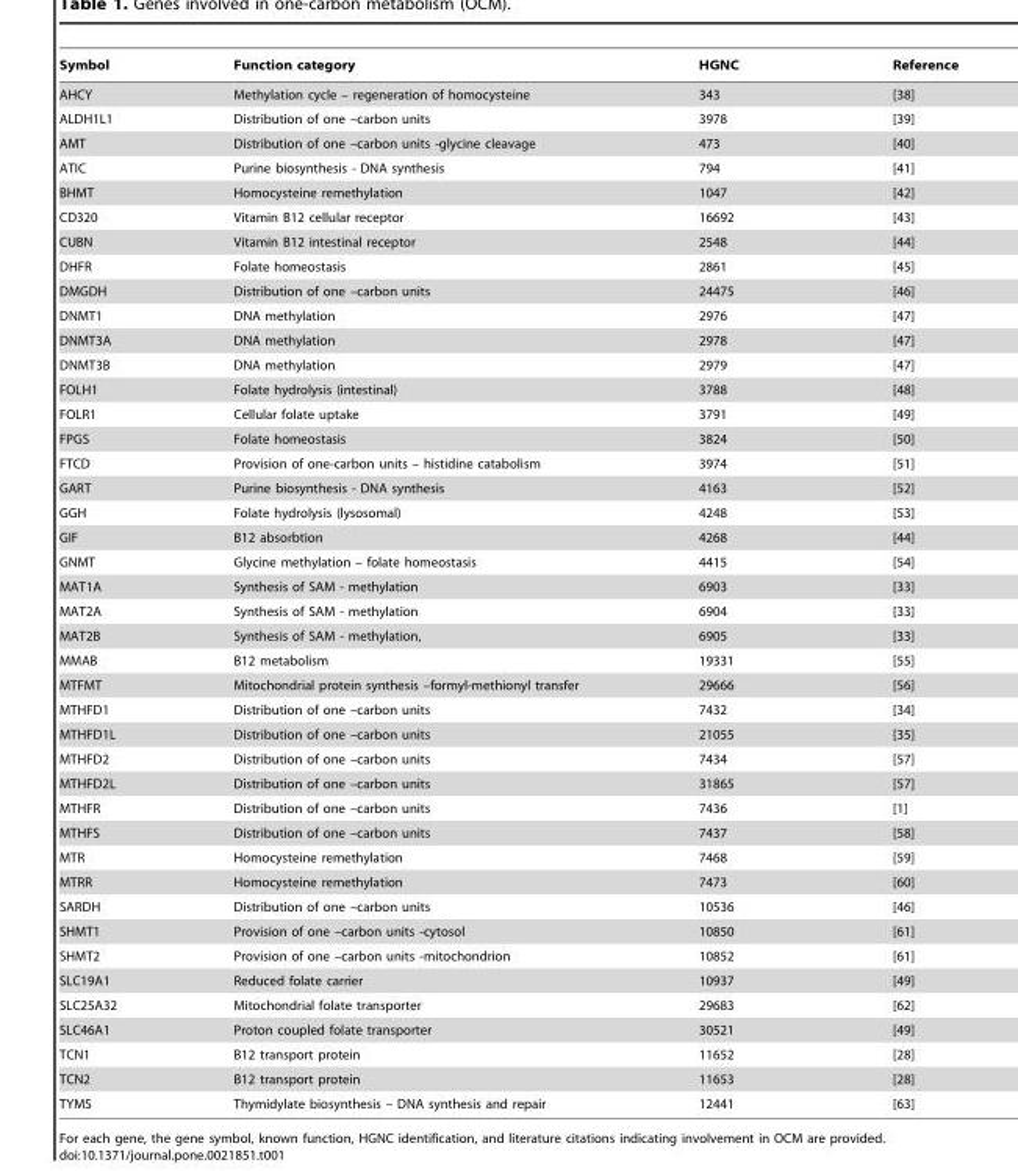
<table><thead><tr><td>Symbol</td><td>Function category</td><td>HGNC</td><td>Reference</td></tr></thead><tbody><tr><td>AHCY</td><td>Methylation cycle – regeneration of homocysteine</td><td>343</td><td>[38]</td></tr><tr><td>ALDH1L1</td><td>Distribution of one –carbon units</td><td>3978</td><td>[39]</td></tr><tr><td>AMT</td><td>Distribution of one –carbon units -glycine cleavage</td><td>473</td><td>[40]</td></tr><tr><td>ATIC</td><td>Purine biosynthesis - DNA synthesis</td><td>794</td><td>[41]</td></tr><tr><td>BHMT</td><td>Homocysteine remethylation</td><td>1047</td><td>[42]</td></tr><tr><td>CD320</td><td>Vitamin B12 cellular receptor</td><td>16692</td><td>[43]</td></tr><tr><td>CUBN</td><td>Vitamin B12 intestinal receptor</td><td>2548</td><td>[44]</td></tr><tr><td>DHFR</td><td>Folate homeostasis</td><td>2861</td><td>[45]</td></tr><tr><td>DMGDH</td><td>Distribution of one –carbon units</td><td>24475</td><td>[46]</td></tr><tr><td>DNMT1</td><td>DNA methylation</td><td>2976</td><td>[47]</td></tr><tr><td>DNMT3A</td><td>DNA methylation</td><td>2978</td><td>[47]</td></tr><tr><td>DNMT3B</td><td>DNA methylation</td><td>2979</td><td>[47]</td></tr><tr><td>FOLH1</td><td>Folate hydrolysis (intestinal)</td><td>3788</td><td>[48]</td></tr><tr><td>FOLR1</td><td>Cellular folate uptake</td><td>3791</td><td>[49]</td></tr><tr><td>FPGS</td><td>Folate homeostasis</td><td>3824</td><td>[50]</td></tr><tr><td>FTCD</td><td>Provision of one-carbon units – histidine catabolism</td><td>3974</td><td>[51]</td></tr><tr><td>GART</td><td>Purine biosynthesis - DNA synthesis</td><td>4163</td><td>[52]</td></tr><tr><td>GGH</td><td>Folate hydrolysis (lysosomal)</td><td>4248</td><td>[53]</td></tr><tr><td>GIF</td><td>B12 absorbtion</td><td>4268</td><td>[44]</td></tr><tr><td>GNMT</td><td>Glycine methylation – folate homeostasis</td><td>4415</td><td>[54]</td></tr><tr><td>MAT1A</td><td>Synthesis of SAM - methylation</td><td>6903</td><td>[33]</td></tr><tr><td>MAT2A</td><td>Synthesis of SAM - methylation</td><td>6904</td><td>[33]</td></tr><tr><td>MAT2B</td><td>Synthesis of SAM - methylation,</td><td>6905</td><td>[33]</td></tr><tr><td>MMAB</td><td>B12 metabolism</td><td>19331</td><td>[55]</td></tr><tr><td>MTFMT</td><td>Mitochondrial protein synthesis –formyl-methionyl transfer</td><td>29666</td><td>[56]</td></tr><tr><td>MTHFD1</td><td>Distribution of one –carbon units</td><td>7432</td><td>[34]</td></tr><tr><td>MTHFD1L</td><td>Distribution of one –carbon units</td><td>21055</td><td>[35]</td></tr><tr><td>MTHFD2</td><td>Distribution of one –carbon units</td><td>7434</td><td>[57]</td></tr><tr><td>MTHFD2L</td><td>Distribution of one –carbon units</td><td>31865</td><td>[57]</td></tr><tr><td>MTHFR</td><td>Distribution of one –carbon units</td><td>7436</td><td>[1]</td></tr><tr><td>MTHFS</td><td>Distribution of one –carbon units</td><td>7437</td><td>[58]</td></tr><tr><td>MTR</td><td>Homocysteine remethylation</td><td>7468</td><td>[59]</td></tr><tr><td>MTRR</td><td>Homocysteine remethylation</td><td>7473</td><td>[60]</td></tr><tr><td>SARDH</td><td>Distribution of one –carbon units</td><td>10536</td><td>[46]</td></tr><tr><td>SHMT1</td><td>Provision of one –carbon units -cytosol</td><td>10850</td><td>[61]</td></tr><tr><td>SHMT2</td><td>Provision of one –carbon units -mitochondrion</td><td>10852</td><td>[61]</td></tr><tr><td>SLC19A1</td><td>Reduced folate carrier</td><td>10937</td><td>[49]</td></tr><tr><td>SLC25A32</td><td>Mitochondrial folate transporter</td><td>29683</td><td>[62]</td></tr><tr><td>SLC46A1</td><td>Proton coupled folate transporter</td><td>30521</td><td>[49]</td></tr><tr><td>TCN1</td><td>B12 transport protein</td><td>11652</td><td>[28]</td></tr><tr><td>TCN2</td><td>B12 transport protein</td><td>11653</td><td>[28]</td></tr><tr><td>TYMS</td><td>Thymidylate biosynthesis – DNA synthesis and repair</td><td>12441</td><td>[63]</td></tr></tbody></table>